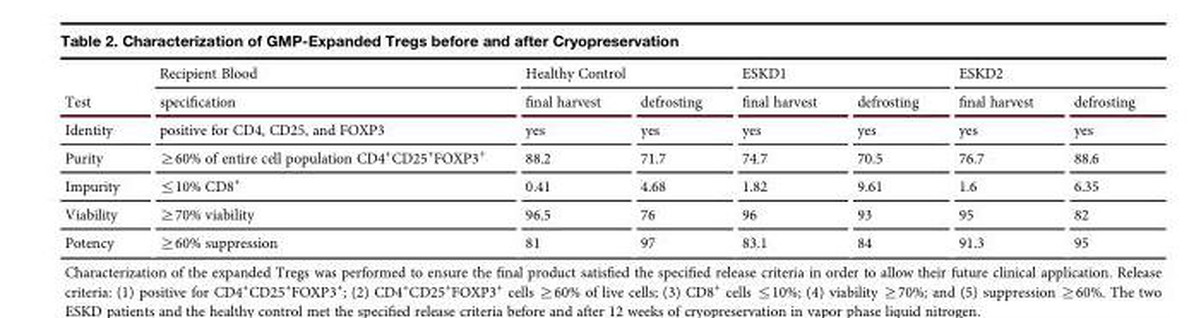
<table><thead><tr><td rowspan="2">Test</td><td rowspan="2">Recipient Blood specification</td><td colspan="2">Healthy Control</td><td colspan="2">ESKD1</td><td colspan="2">ESKD2</td></tr><tr><td>final harvest</td><td>defrosting</td><td>final harvest</td><td>defrosting</td><td>final harvest</td><td>defrosting</td></tr></thead><tbody><tr><td>Identity</td><td>positive for CD4, CD25, and FOXP3</td><td>yes</td><td>yes</td><td>yes</td><td>yes</td><td>yes</td><td>yes</td></tr><tr><td>Purity</td><td>≥60% of entire cell population CD4<sup>+</sup>CD25<sup>+</sup>FOXP3<sup>+</sup></td><td>88.2</td><td>71.7</td><td>74.7</td><td>70.5</td><td>76.7</td><td>88.6</td></tr><tr><td>Impurity</td><td>≤10% CD8<sup>+</sup></td><td>0.41</td><td>4.68</td><td>1.82</td><td>9.61</td><td>1.6</td><td>6.35</td></tr><tr><td>Viability</td><td>≥70% viability</td><td>96.5</td><td>76</td><td>96</td><td>93</td><td>95</td><td>82</td></tr><tr><td>Potency</td><td>≥60% suppression</td><td>81</td><td>97</td><td>83.1</td><td>84</td><td>91.3</td><td>95</td></tr></tbody></table>